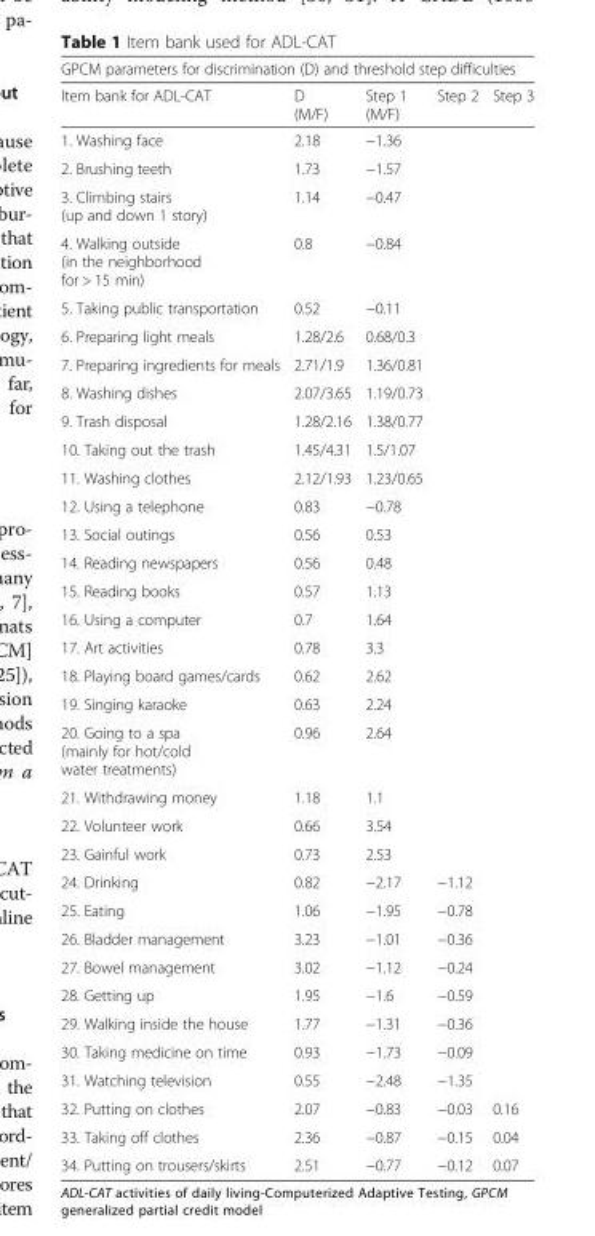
<table><thead><tr><td colspan="5">GPCM parameters for discrimination (D) and threshold step difficulties</td></tr><tr><td>Item bank for ADL-CAT</td><td>D (M/F)</td><td>Step 1 (M/F)</td><td>Step 2</td><td>Step 3</td></tr></thead><tbody><tr><td>1. Washing face</td><td>2.18</td><td>−1.36</td><td></td><td></td></tr><tr><td>2. Brushing teeth</td><td>1.73</td><td>−1.57</td><td></td><td></td></tr><tr><td>3. Climbing stairs (up and down 1 story)</td><td>1.14</td><td>−0.47</td><td></td><td></td></tr><tr><td>4. Walking outside (in the neighborhood for &gt; 15 min)</td><td>0.8</td><td>−0.84</td><td></td><td></td></tr><tr><td>5. Taking public transportation</td><td>0.52</td><td>−0.11</td><td></td><td></td></tr><tr><td>6. Preparing light meals</td><td>1.28/2.6</td><td>0.68/0.3</td><td></td><td></td></tr><tr><td>7. Preparing ingredients for meals</td><td>2.71/1.9</td><td>1.36/0.81</td><td></td><td></td></tr><tr><td>8. Washing dishes</td><td>2.07/3.65</td><td>1.19/0.73</td><td></td><td></td></tr><tr><td>9. Trash disposal</td><td>1.28/2.16</td><td>1.38/0.77</td><td></td><td></td></tr><tr><td>10. Taking out the trash</td><td>1.45/4.31</td><td>1.5/1.07</td><td></td><td></td></tr><tr><td>11. Washing clothes</td><td>2.12/1.93</td><td>1.23/0.65</td><td></td><td></td></tr><tr><td>12. Using a telephone</td><td>0.83</td><td>−0.78</td><td></td><td></td></tr><tr><td>13. Social outings</td><td>0.56</td><td>0.53</td><td></td><td></td></tr><tr><td>14. Reading newspapers</td><td>0.56</td><td>0.48</td><td></td><td></td></tr><tr><td>15. Reading books</td><td>0.57</td><td>1.13</td><td></td><td></td></tr><tr><td>16. Using a computer</td><td>0.7</td><td>1.64</td><td></td><td></td></tr><tr><td>17. Art activities</td><td>0.78</td><td>3.3</td><td></td><td></td></tr><tr><td>18. Playing board games/cards</td><td>0.62</td><td>2.62</td><td></td><td></td></tr><tr><td>19. Singing karaoke</td><td>0.63</td><td>2.24</td><td></td><td></td></tr><tr><td>20. Going to a spa (mainly for hot/cold water treatments)</td><td>0.96</td><td>2.64</td><td></td><td></td></tr><tr><td>21. Withdrawing money</td><td>1.18</td><td>1.1</td><td></td><td></td></tr><tr><td>22. Volunteer work</td><td>0.66</td><td>3.54</td><td></td><td></td></tr><tr><td>23. Gainful work</td><td>0.73</td><td>2.53</td><td></td><td></td></tr><tr><td>24. Drinking</td><td>0.82</td><td>−2.17</td><td>−1.12</td><td></td></tr><tr><td>25. Eating</td><td>1.06</td><td>−1.95</td><td>−0.78</td><td></td></tr><tr><td>26. Bladder management</td><td>3.23</td><td>−1.01</td><td>−0.36</td><td></td></tr><tr><td>27. Bowel management</td><td>3.02</td><td>−1.12</td><td>−0.24</td><td></td></tr><tr><td>28. Getting up</td><td>1.95</td><td>−1.6</td><td>−0.59</td><td></td></tr><tr><td>29. Walking inside the house</td><td>1.77</td><td>−1.31</td><td>−0.36</td><td></td></tr><tr><td>30. Taking medicine on time</td><td>0.93</td><td>−1.73</td><td>−0.09</td><td></td></tr><tr><td>31. Watching television</td><td>0.55</td><td>−2.48</td><td>−1.35</td><td></td></tr><tr><td>32. Putting on clothes</td><td>2.07</td><td>−0.83</td><td>−0.03</td><td>0.16</td></tr><tr><td>33. Taking off clothes</td><td>2.36</td><td>−0.87</td><td>−0.15</td><td>0.04</td></tr><tr><td>34. Putting on trousers/skirts</td><td>2.51</td><td>−0.77</td><td>−0.12</td><td>0.07</td></tr></tbody></table>